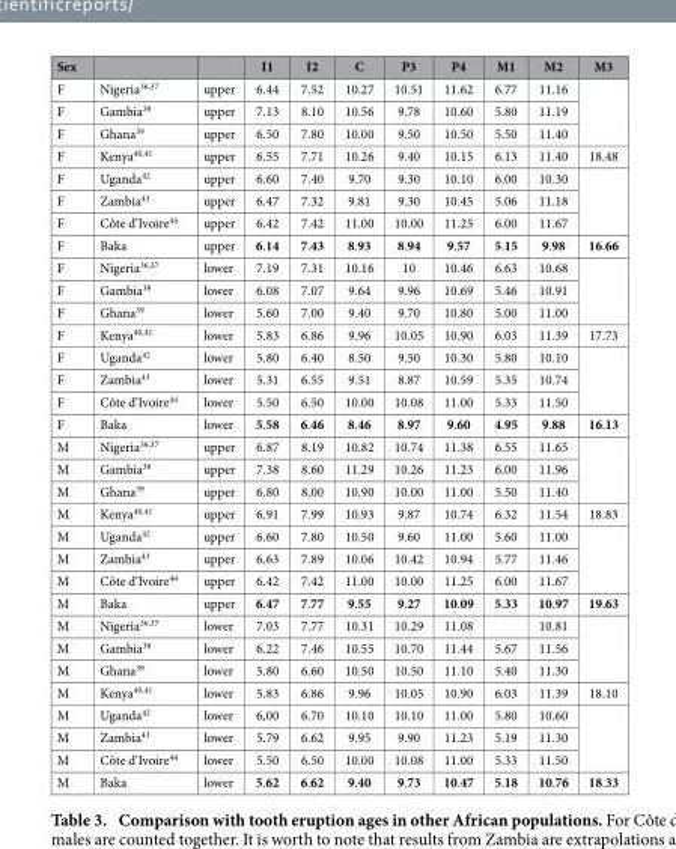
<table><thead><tr><td>Sex</td><td></td><td></td><td>I1</td><td>I2</td><td>C</td><td>P3</td><td>P4</td><td>M1</td><td>M2</td><td>M3</td></tr></thead><tbody><tr><td>F</td><td>Nigeria<sup>36</sup>,<sup>37</sup></td><td>upper</td><td>6.44</td><td>7.52</td><td>10.27</td><td>10.51</td><td>11.62</td><td>6.77</td><td>11.16</td><td rowspan="3"></td></tr><tr><td>F</td><td>Gambia<sup>38</sup></td><td>upper</td><td>7.13</td><td>8.10</td><td>10.56</td><td>9.78</td><td>10.60</td><td>5.80</td><td>11.19</td></tr><tr><td>F</td><td>Ghana<sup>39</sup></td><td>upper</td><td>6.50</td><td>7.80</td><td>10.00</td><td>9.50</td><td>10.50</td><td>5.50</td><td>11.40</td></tr><tr><td>F</td><td>Kenya<sup>40</sup>,<sup>41</sup></td><td>upper</td><td>6.55</td><td>7.71</td><td>10.26</td><td>9.40</td><td>10.15</td><td>6.13</td><td>11.40</td><td>18.48</td></tr><tr><td>F</td><td>Uganda<sup>42</sup></td><td>upper</td><td>6.60</td><td>7.40</td><td>9.70</td><td>9.30</td><td>10.10</td><td>6.00</td><td>10.30</td><td rowspan="3"></td></tr><tr><td>F</td><td>Zambia<sup>43</sup></td><td>upper</td><td>6.47</td><td>7.32</td><td>9.81</td><td>9.30</td><td>10.45</td><td>5.06</td><td>11.18</td></tr><tr><td>F</td><td>Côte d’Ivoire<sup>44</sup></td><td>upper</td><td>6.42</td><td>7.42</td><td>11.00</td><td>10.00</td><td>11.25</td><td>6.00</td><td>11.67</td></tr><tr><td>F</td><td>Baka</td><td>upper</td><td>6.14</td><td>7.43</td><td>8.93</td><td>8.94</td><td>9.57</td><td>5.15</td><td>9.98</td><td>16.66</td></tr><tr><td>F</td><td>Nigeria<sup>36</sup>,<sup>37</sup></td><td>lower</td><td>7.19</td><td>7.31</td><td>10.16</td><td>10</td><td>10.46</td><td>6.63</td><td>10.68</td><td rowspan="3"></td></tr><tr><td>F</td><td>Gambia<sup>38</sup></td><td>lower</td><td>6.08</td><td>7.07</td><td>9.64</td><td>9.96</td><td>10.69</td><td>5.46</td><td>10.91</td></tr><tr><td>F</td><td>Ghana<sup>39</sup></td><td>lower</td><td>5.60</td><td>7.00</td><td>9.40</td><td>9.70</td><td>10.80</td><td>5.00</td><td>11.00</td></tr><tr><td>F</td><td>Kenya<sup>40</sup>,<sup>41</sup></td><td>lower</td><td>5.83</td><td>6.86</td><td>9.96</td><td>10.05</td><td>10.90</td><td>6.03</td><td>11.39</td><td>17.73</td></tr><tr><td>F</td><td>Uganda<sup>42</sup></td><td>lower</td><td>5.80</td><td>6.40</td><td>8.50</td><td>9.50</td><td>10.30</td><td>5.80</td><td>10.10</td><td rowspan="3"></td></tr><tr><td>F</td><td>Zambia<sup>43</sup></td><td>lower</td><td>5.31</td><td>6.55</td><td>9.51</td><td>8.87</td><td>10.59</td><td>5.35</td><td>10.74</td></tr><tr><td>F</td><td>Côte d’Ivoire<sup>44</sup></td><td>lower</td><td>5.50</td><td>6.50</td><td>10.00</td><td>10.08</td><td>11.00</td><td>5.33</td><td>11.50</td></tr><tr><td>F</td><td>Baka</td><td>lower</td><td>5.58</td><td>6.46</td><td>8.46</td><td>8.97</td><td>9.60</td><td>4.95</td><td>9.88</td><td>16.13</td></tr><tr><td>M</td><td>Nigeria<sup>36</sup>,<sup>37</sup></td><td>upper</td><td>6.87</td><td>8.19</td><td>10.82</td><td>10.74</td><td>11.38</td><td>6.55</td><td>11.65</td><td rowspan="3"></td></tr><tr><td>M</td><td>Gambia<sup>38</sup></td><td>upper</td><td>7.38</td><td>8.60</td><td>11.29</td><td>10.26</td><td>11.23</td><td>6.00</td><td>11.96</td></tr><tr><td>M</td><td>Ghana<sup>39</sup></td><td>upper</td><td>6.80</td><td>8,00</td><td>10.90</td><td>10.00</td><td>11.00</td><td>5.50</td><td>11.40</td></tr><tr><td>M</td><td>Kenya<sup>40</sup>,<sup>41</sup></td><td>upper</td><td>6.91</td><td>7.99</td><td>10.93</td><td>9.87</td><td>10.74</td><td>6.32</td><td>11.54</td><td>18.83</td></tr><tr><td>M</td><td>Uganda<sup>42</sup></td><td>upper</td><td>6.60</td><td>7.80</td><td>10.50</td><td>9.60</td><td>11.00</td><td>5.60</td><td>11.00</td><td rowspan="3"></td></tr><tr><td>M</td><td>Zambia<sup>43</sup></td><td>upper</td><td>6.63</td><td>7.89</td><td>10.06</td><td>10.42</td><td>10.94</td><td>5.77</td><td>11.46</td></tr><tr><td>M</td><td>Côte d’Ivoire<sup>44</sup></td><td>upper</td><td>6.42</td><td>7.42</td><td>11.00</td><td>10.00</td><td>11.25</td><td>6.00</td><td>11.67</td></tr><tr><td>M</td><td>Baka</td><td>upper</td><td>6.47</td><td>7.77</td><td>9.55</td><td>9.27</td><td>10.09</td><td>5.33</td><td>10.97</td><td>19.63</td></tr><tr><td>M</td><td>Nigeria<sup>36</sup>,<sup>37</sup></td><td>lower</td><td>7.03</td><td>7.77</td><td>10.31</td><td>10.29</td><td>11.08</td><td></td><td>10.81</td><td rowspan="3"></td></tr><tr><td>M</td><td>Gambia<sup>38</sup></td><td>lower</td><td>6.22</td><td>7.46</td><td>10.55</td><td>10.70</td><td>11.44</td><td>5.67</td><td>11.56</td></tr><tr><td>M</td><td>Ghana<sup>39</sup></td><td>lower</td><td>5.80</td><td>6.60</td><td>10.50</td><td>10.50</td><td>11.10</td><td>5.40</td><td>11.30</td></tr><tr><td>M</td><td>Kenya<sup>40</sup>,<sup>41</sup></td><td>lower</td><td>5.83</td><td>6.86</td><td>9.96</td><td>10.05</td><td>10.90</td><td>6.03</td><td>11.39</td><td>18.10</td></tr><tr><td>M</td><td>Uganda<sup>42</sup></td><td>lower</td><td>6,00</td><td>6.70</td><td>10.10</td><td>10.10</td><td>11.00</td><td>5.80</td><td>10.60</td><td rowspan="3"></td></tr><tr><td>M</td><td>Zambia<sup>43</sup></td><td>lower</td><td>5.79</td><td>6.62</td><td>9.95</td><td>9.90</td><td>11.23</td><td>5.19</td><td>11.30</td></tr><tr><td>M</td><td>Côte d’Ivoire<sup>44</sup></td><td>lower</td><td>5.50</td><td>6.50</td><td>10.00</td><td>10.08</td><td>11.00</td><td>5.33</td><td>11.50</td></tr><tr><td>M</td><td>Baka</td><td>lower</td><td>5.62</td><td>6.62</td><td>9.40</td><td>9.73</td><td>10.47</td><td>5.18</td><td>10.76</td><td>18.33</td></tr></tbody></table>